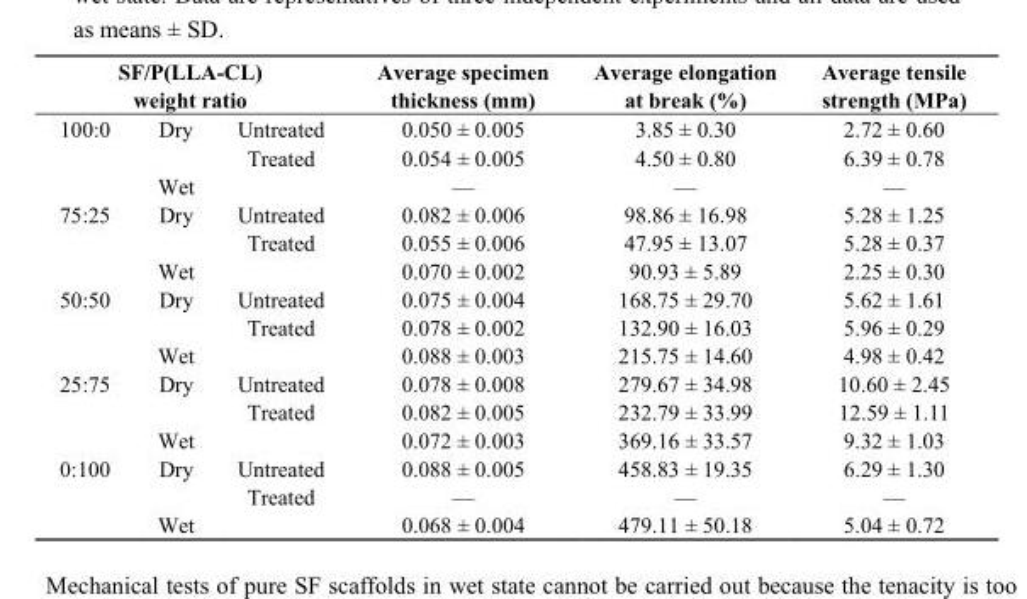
<table><thead><tr><td colspan="3">SF/P(LLA-CL) weight ratio</td><td rowspan="2">Average specimen thickness (mm) 0.050 ± 0.005</td><td rowspan="2">Average elongation at break (%) 3.85 ± 0.30</td><td rowspan="2">Average tensile strength (MPa) 2.72 ± 0.60</td></tr><tr><td>100:0</td><td>Dry</td><td>Untreated</td></tr></thead><tbody><tr><td></td><td></td><td>Treated</td><td>0.054 ± 0.005</td><td>4.50 ± 0.80</td><td>6.39 ± 0.78</td></tr><tr><td></td><td>Wet</td><td></td><td>—</td><td>—</td><td>—</td></tr><tr><td rowspan="3">75:25</td><td>Dry</td><td>Untreated</td><td>0.082 ± 0.006</td><td>98.86 ± 16.98</td><td>5.28 ± 1.25</td></tr><tr><td></td><td>Treated</td><td>0.055 ± 0.006</td><td>47.95 ± 13.07</td><td>5.28 ± 0.37</td></tr><tr><td>Wet</td><td></td><td>0.070 ± 0.002</td><td>90.93 ± 5.89</td><td>2.25 ± 0.30</td></tr><tr><td rowspan="3">50:50</td><td>Dry</td><td>Untreated</td><td>0.075 ± 0.004</td><td>168.75 ± 29.70</td><td>5.62 ± 1.61</td></tr><tr><td></td><td>Treated</td><td>0.078 ± 0.002</td><td>132.90 ± 16.03</td><td>5.96 ± 0.29</td></tr><tr><td>Wet</td><td></td><td>0.088 ± 0.003</td><td>215.75 ± 14.60</td><td>4.98 ± 0.42</td></tr><tr><td rowspan="3">25:75</td><td>Dry</td><td>Untreated</td><td>0.078 ± 0.008</td><td>279.67 ± 34.98</td><td>10.60 ± 2.45</td></tr><tr><td></td><td>Treated</td><td>0.082 ± 0.005</td><td>232.79 ± 33.99</td><td>12.59 ± 1.11</td></tr><tr><td>Wet</td><td></td><td>0.072 ± 0.003</td><td>369.16 ± 33.57</td><td>9.32 ± 1.03</td></tr><tr><td rowspan="3">0:100</td><td>Dry</td><td>Untreated</td><td>0.088 ± 0.005</td><td>458.83 ± 19.35</td><td>6.29 ± 1.30</td></tr><tr><td></td><td>Treated</td><td>—</td><td>—</td><td>—</td></tr><tr><td>Wet</td><td></td><td>0.068 ± 0.004</td><td>479.11 ± 50.18</td><td>5.04 ± 0.72</td></tr></tbody></table>